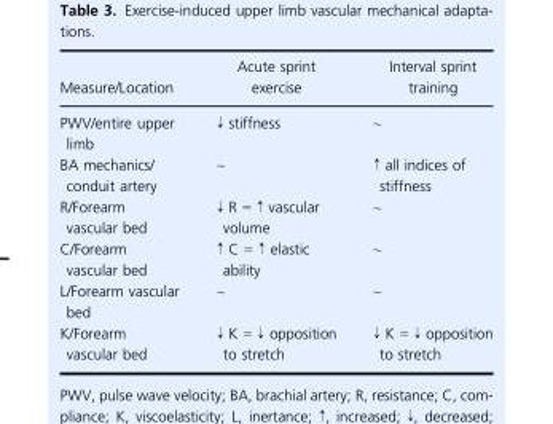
<table><thead><tr><td>Measure/Location</td><td>Acute sprint exercise</td><td>Interval sprint training</td></tr></thead><tbody><tr><td>PWV/entire upper limb</td><td>↓ stiffness</td><td>~</td></tr><tr><td>BA mechanics/ conduit artery</td><td>~</td><td>↑ all indices of stiffness</td></tr><tr><td>R/Forearm vascular bed</td><td>↓ R = ↑ vascular volume</td><td>~</td></tr><tr><td>C/Forearm vascular bed</td><td>↑ C = ↑ elastic ability</td><td>~</td></tr><tr><td>L/Forearm vascular bed</td><td>~</td><td>~</td></tr><tr><td>K/Forearm vascular bed</td><td>↓ K = ↓ opposition to stretch</td><td>↓ K = ↓ opposition to stretch</td></tr></tbody></table>